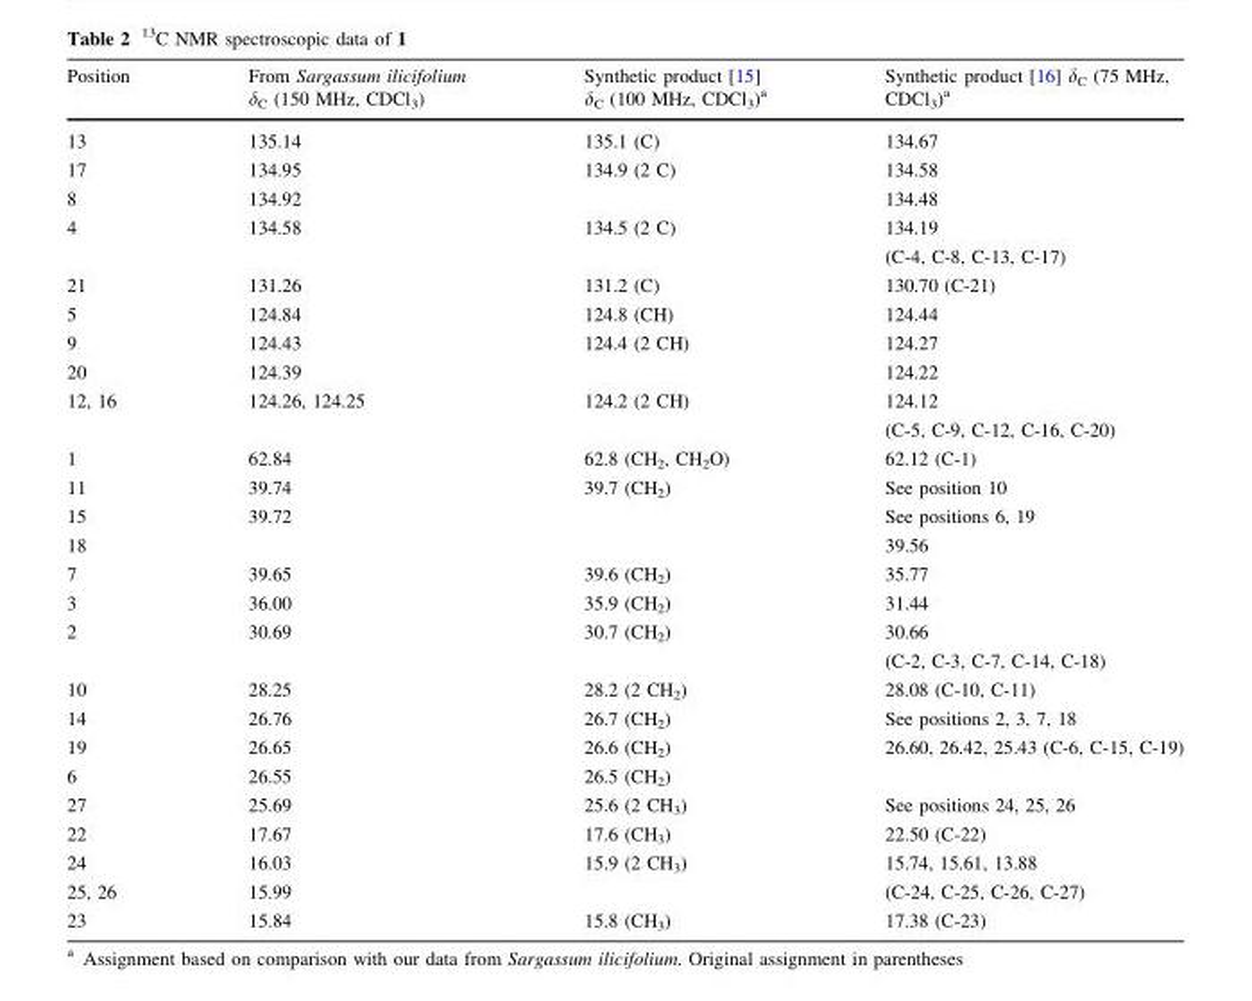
<table><thead><tr><td>Position</td><td>From Sargassum ilicifolium δ<sub>C</sub> (150 MHz, CDCl<sub>3</sub>)</td><td>Synthetic product [15] δ<sub>C</sub> (100 MHz, CDCl<sub>3</sub>)<sup>a</sup></td><td>Synthetic product [16] δ<sub>C</sub> (75 MHz, CDCl<sub>3</sub>)<sup>a</sup></td></tr></thead><tbody><tr><td>13</td><td>135.14</td><td>135.1 (C)</td><td>134.67</td></tr><tr><td>17</td><td>134.95</td><td rowspan="2">134.9 (2 C)</td><td rowspan="2">134.58 134.48</td></tr><tr><td>8</td><td>134.92</td></tr><tr><td>4</td><td>134.58</td><td>134.5 (2 C)</td><td>134.19 (C-4, C-8, C-13, C-17)</td></tr><tr><td>21</td><td>131.26</td><td>131.2 (C)</td><td>130.70 (C-21)</td></tr><tr><td>5</td><td>124.84</td><td>124.8 (CH)</td><td>124.44</td></tr><tr><td>9</td><td>124.43</td><td rowspan="2">124.4 (2 CH)</td><td rowspan="2">124.27 124.22</td></tr><tr><td>20</td><td>124.39</td></tr><tr><td>12, 16</td><td>124.26, 124.25</td><td>124.2 (2 CH)</td><td>124.12 (C-5, C-9, C-12, C-16, C-20)</td></tr><tr><td>1</td><td>62.84</td><td>62.8 (CH<sub>2</sub>, CH<sub>2</sub>O)</td><td>62.12 (C-1)</td></tr><tr><td>11</td><td>39.74</td><td>39.7 (CH<sub>2</sub>)</td><td>See position 10</td></tr><tr><td>15</td><td>39.72</td><td></td><td>See positions 6, 19</td></tr><tr><td>18</td><td></td><td></td><td>39.56</td></tr><tr><td>7</td><td>39.65</td><td>39.6 (CH<sub>2</sub>)</td><td>35.77</td></tr><tr><td>3</td><td>36.00</td><td>35.9 (CH<sub>2</sub>)</td><td>31.44</td></tr><tr><td>2</td><td>30.69</td><td>30.7 (CH<sub>2</sub>)</td><td>30.66 (C-2, C-3, C-7, C-14, C-18)</td></tr><tr><td>10</td><td>28.25</td><td>28.2 (2 CH<sub>2</sub>)</td><td>28.08 (C-10, C-11)</td></tr><tr><td>14</td><td>26.76</td><td>26.7 (CH<sub>2</sub>)</td><td>See positions 2, 3, 7, 18</td></tr><tr><td>19</td><td>26.65</td><td>26.6 (CH<sub>2</sub>)</td><td rowspan="2">26.60, 26.42, 25.43 (C-6, C-15, C-19)</td></tr><tr><td>6</td><td>26.55</td><td>26.5 (CH<sub>2</sub>)</td></tr><tr><td>27</td><td>25.69</td><td>25.6 (2 CH<sub>3</sub>)</td><td>See positions 24, 25, 26</td></tr><tr><td>22</td><td>17.67</td><td>17.6 (CH<sub>3</sub>)</td><td>22.50 (C-22)</td></tr><tr><td>24</td><td>16.03</td><td>15.9 (2 CH<sub>3</sub>)</td><td>15.74, 15.61, 13.88</td></tr><tr><td>25, 26</td><td>15.99</td><td></td><td>(C-24, C-25, C-26, C-27)</td></tr><tr><td>23</td><td>15.84</td><td>15.8 (CH<sub>3</sub>)</td><td>17.38 (C-23)</td></tr></tbody></table>